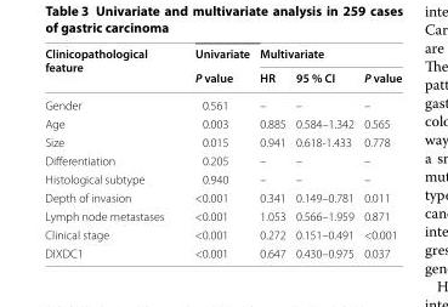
<table><thead><tr><td rowspan="2">Clinicopathological feature</td><td rowspan="2">Univariate P value</td><td colspan="3">Multivariate</td></tr><tr><td>HR</td><td>95 % CI</td><td>P value</td></tr></thead><tbody><tr><td>Gender</td><td>0.561</td><td>–</td><td>–</td><td>–</td></tr><tr><td>Age</td><td>0.003</td><td>0.885</td><td>0.584–1.342</td><td>0.565</td></tr><tr><td>Size</td><td>0.015</td><td>0.941</td><td>0.618-1.433</td><td>0.778</td></tr><tr><td>Differentiation</td><td>0.205</td><td>–</td><td>–</td><td>–</td></tr><tr><td>Histological subtype</td><td>0.940</td><td>–</td><td>–</td><td>–</td></tr><tr><td>Depth of invasion</td><td>&lt;0.001</td><td>0.341</td><td>0.149–0.781</td><td>0.011</td></tr><tr><td>Lymph node metastases</td><td>&lt;0.001</td><td>1.053</td><td>0.566–1.959</td><td>0.871</td></tr><tr><td>Clinical stage</td><td>&lt;0.001</td><td>0.272</td><td>0.151–0.491</td><td>&lt;0.001</td></tr><tr><td>DIXDC1</td><td>&lt;0.001</td><td>0.647</td><td>0.430–0.975</td><td>0.037</td></tr></tbody></table>